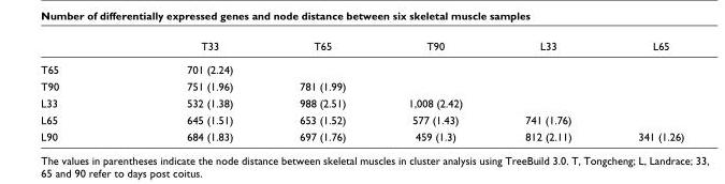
<table><thead><tr><td></td><td>T33</td><td>T65</td><td>T90</td><td>L33</td><td>L65</td></tr></thead><tbody><tr><td>T65</td><td>701 (2.24)</td><td></td><td></td><td></td><td></td></tr><tr><td>T90</td><td>751 (1.96)</td><td>781 (1.99)</td><td></td><td></td><td></td></tr><tr><td>L33</td><td>532 (1.38)</td><td>988 (2.51)</td><td>1,008 (2.42)</td><td></td><td></td></tr><tr><td>L65</td><td>645 (1.51)</td><td>653 (1.52)</td><td>577 (1.43)</td><td>741 (1.76)</td><td></td></tr><tr><td>L90</td><td>684 (1.83)</td><td>697 (1.76)</td><td>459 (1.3)</td><td>812 (2.11)</td><td>341 (1.26)</td></tr></tbody></table>